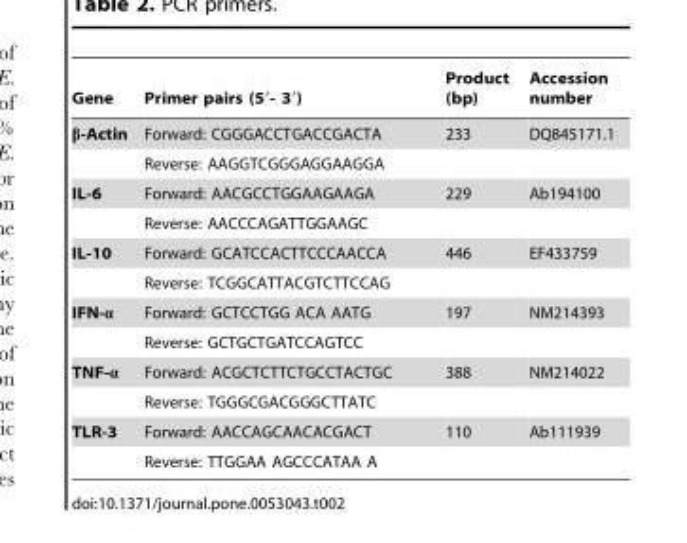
<table><thead><tr><td>Gene</td><td>Primer pairs (5′- 3′)</td><td>Product (bp)</td><td>Accession number</td></tr></thead><tbody><tr><td rowspan="2">β-Actin</td><td>Forward: CGGGACCTGACCGACTA</td><td>233</td><td>DQ845171.1</td></tr><tr><td>Reverse: AAGGTCGGGAGGAAGGA</td><td></td><td></td></tr><tr><td rowspan="2">IL-6</td><td>Forward: AACGCCTGGAAGAAGA</td><td>229</td><td>Ab194100</td></tr><tr><td>Reverse: AACCCAGATTGGAAGC</td><td></td><td></td></tr><tr><td rowspan="2">IL-10</td><td>Forward: GCATCCACTTCCCAACCA</td><td>446</td><td>EF433759</td></tr><tr><td>Reverse: TCGGCATTACGTCTTCCAG</td><td></td><td></td></tr><tr><td rowspan="2">IFN-α</td><td>Forward: GCTCCTGG ACA AATG</td><td>197</td><td>NM214393</td></tr><tr><td>Reverse: GCTGCTGATCCAGTCC</td><td></td><td></td></tr><tr><td rowspan="2">TNF-α</td><td>Forward: ACGCTCTTCTGCCTACTGC</td><td>388</td><td>NM214022</td></tr><tr><td>Reverse: TGGGCGACGGGCTTATC</td><td></td><td></td></tr><tr><td rowspan="2">TLR-3</td><td>Forward: AACCAGCAACACGACT</td><td>110</td><td>Ab111939</td></tr><tr><td>Reverse: TTGGAA AGCCCATAA A</td><td></td><td></td></tr></tbody></table>